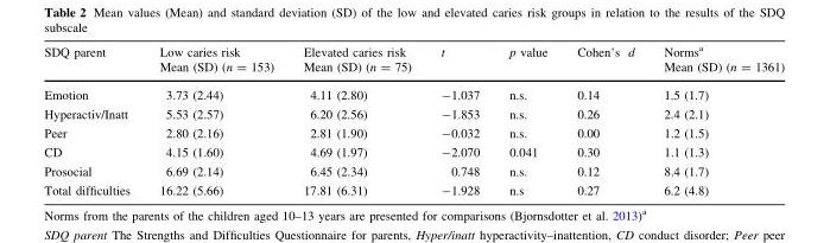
<table><thead><tr><td rowspan="2">SDQ parent</td><td rowspan="2">Low caries risk Mean (SD) (n = 153)</td><td rowspan="2">Elevated caries risk Mean (SD) (n = 75)</td><td rowspan="2">t</td><td rowspan="2">p value</td><td rowspan="2">Cohen’s d</td><td rowspan="2">Norms<sup>a</sup> Mean (SD) (n = 1361)</td></tr><tr></tr></thead><tbody><tr><td>Emotion</td><td>3.73 (2.44)</td><td>4.11 (2.80)</td><td>-1.037</td><td>n.s.</td><td>0.14</td><td>1.5 (1.7)</td></tr><tr><td>Hyperactiv/Inatt</td><td>5.53 (2.57)</td><td>6.20 (2.56)</td><td>-1.853</td><td>n.s.</td><td>0.26</td><td>2.4 (2.1)</td></tr><tr><td>Peer</td><td>2.80 (2.16)</td><td>2.81 (1.90)</td><td>-0.032</td><td>n.s.</td><td>0.00</td><td>1.2 (1.5)</td></tr><tr><td>CD</td><td>4.15 (1.60)</td><td>4.69 (1.97)</td><td>-2.070</td><td>0.041</td><td>0.30</td><td>1.1 (1.3)</td></tr><tr><td>Prosocial</td><td>6.69 (2.14)</td><td>6.45 (2.34)</td><td>0.748</td><td>n.s.</td><td>0.12</td><td>8.4 (1.7)</td></tr><tr><td>Total difficulties</td><td>16.22 (5.66)</td><td>17.81 (6.31)</td><td>-1.928</td><td>n.s</td><td>0.27</td><td>6.2 (4.8)</td></tr></tbody></table>